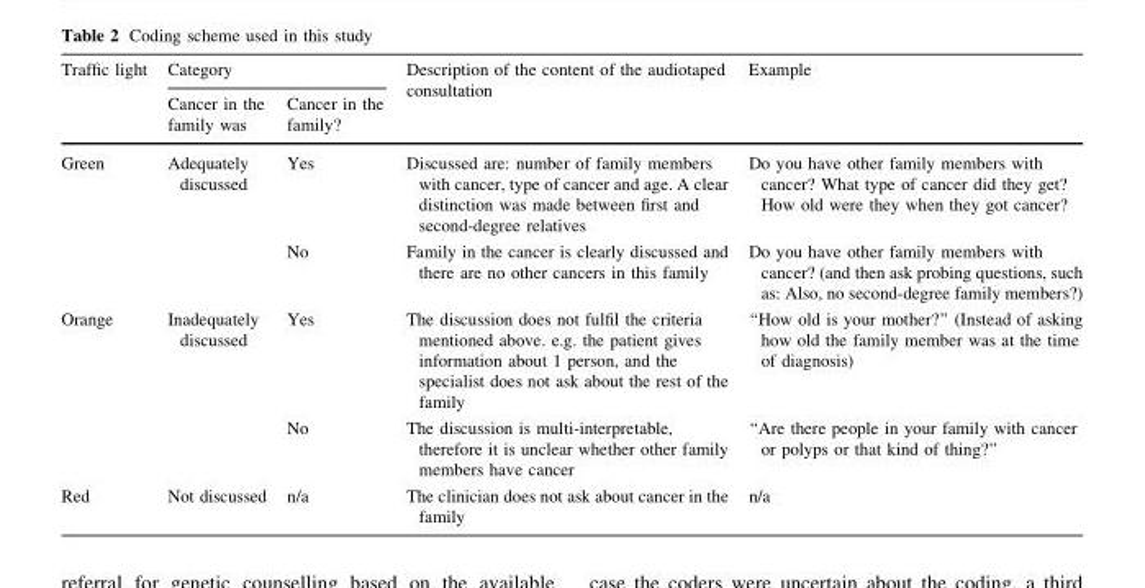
<table><thead><tr><td rowspan="2">Traffic light</td><td colspan="2">Category</td><td rowspan="2">Description of the content of the audiotaped consultation</td><td rowspan="2">Example</td></tr><tr><td>Cancer in the family was</td><td>Cancer in the family?</td></tr></thead><tbody><tr><td rowspan="2">Green</td><td>Adequately discussed</td><td>Yes</td><td>Discussed are: number of family members with cancer, type of cancer and age. A clear distinction was made between first and second-degree relatives</td><td>Do you have other family members with cancer? What type of cancer did they get? How old were they when they got cancer?</td></tr><tr><td></td><td>No</td><td>Family in the cancer is clearly discussed and there are no other cancers in this family</td><td>Do you have other family members with cancer? (and then ask probing questions, such as: Also, no second-degree family members?)</td></tr><tr><td rowspan="2">Orange</td><td>Inadequately discussed</td><td>Yes</td><td>The discussion does not fulfil the criteria mentioned above. e.g. the patient gives information about 1 person, and the specialist does not ask about the rest of the family</td><td>‘‘How old is your mother?’’ (Instead of asking how old the family member was at the time of diagnosis)</td></tr><tr><td></td><td>No</td><td>The discussion is multi-interpretable, therefore it is unclear whether other family members have cancer</td><td>‘‘Are there people in your family with cancer or polyps or that kind of thing?’’</td></tr><tr><td>Red</td><td>Not discussed</td><td>n/a</td><td>The clinician does not ask about cancer in the family</td><td>n/a</td></tr></tbody></table>